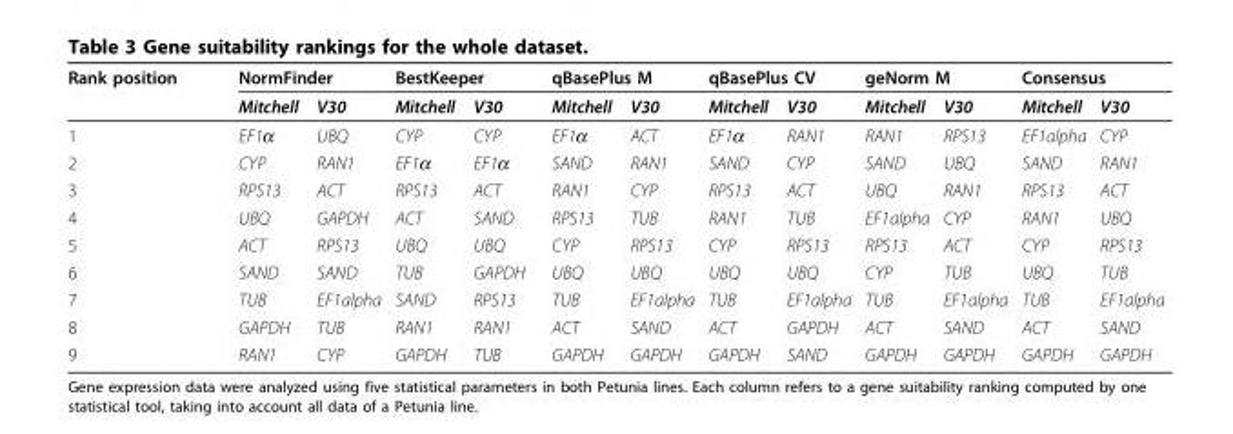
<table><tbody><tr><td rowspan="2">Rank position</td><td colspan="2">NormFinder</td><td colspan="2">BestKeeper</td><td colspan="2">qBasePlus M</td><td colspan="2">qBasePlus CV</td><td colspan="2">geNorm M</td><td colspan="2">Consensus</td></tr><tr><td>Mitchell</td><td>V30</td><td>Mitchell</td><td>V30</td><td>Mitchell</td><td>V30</td><td>Mitchell</td><td>V30</td><td>Mitchell</td><td>V30</td><td>Mitchell</td><td>V30</td></tr><tr><td>1</td><td>EF1α</td><td>UBQ</td><td>CYP</td><td>CYP</td><td>EF1α</td><td>ACT</td><td>EF1α</td><td>RAN1</td><td>RAN1</td><td>RPS13</td><td>EF1alpha</td><td>CYP</td></tr><tr><td>2</td><td>CYP</td><td>RAN1</td><td>EF1α</td><td>EF1α</td><td>SAND</td><td>RAN1</td><td>SAND</td><td>CYP</td><td>SAND</td><td>UBQ</td><td>SAND</td><td>RAN1</td></tr><tr><td>3</td><td>RPS13</td><td>ACT</td><td>RPS13</td><td>ACT</td><td>RAN1</td><td>CYP</td><td>RPS13</td><td>ACT</td><td>UBQ</td><td>RAN1</td><td>RPS13</td><td>ACT</td></tr><tr><td>4</td><td>UBQ</td><td>GAPDH</td><td>ACT</td><td>SAND</td><td>RPS13</td><td>TUB</td><td>RAN1</td><td>TUB</td><td>EF1alpha</td><td>CYP</td><td>RAN1</td><td>UBQ</td></tr><tr><td>5</td><td>ACT</td><td>RPS13</td><td>UBQ</td><td>UBQ</td><td>CYP</td><td>RPS13</td><td>CYP</td><td>RPS13</td><td>RPS13</td><td>ACT</td><td>CYP</td><td>RPS13</td></tr><tr><td>6</td><td>SAND</td><td>SAND</td><td>TUB</td><td>GAPDH</td><td>UBQ</td><td>UBQ</td><td>UBQ</td><td>UBQ</td><td>CYP</td><td>TUB</td><td>UBQ</td><td>TUB</td></tr><tr><td>7</td><td>TUB</td><td>EF1alpha</td><td>SAND</td><td>RPS13</td><td>TUB</td><td>EF1alpha</td><td>TUB</td><td>EF1alpha</td><td>TUB</td><td>EF1alpha</td><td>TUB</td><td>EF1alpha</td></tr><tr><td>8</td><td>GAPDH</td><td>TUB</td><td>RAN1</td><td>RAN1</td><td>ACT</td><td>SAND</td><td>ACT</td><td>GAPDH</td><td>ACT</td><td>SAND</td><td>ACT</td><td>SAND</td></tr><tr><td>9</td><td>RAN1</td><td>CYP</td><td>GAPDH</td><td>TUB</td><td>GAPDH</td><td>GAPDH</td><td>GAPDH</td><td>SAND</td><td>GAPDH</td><td>GAPDH</td><td>GAPDH</td><td>GAPDH</td></tr></tbody></table>